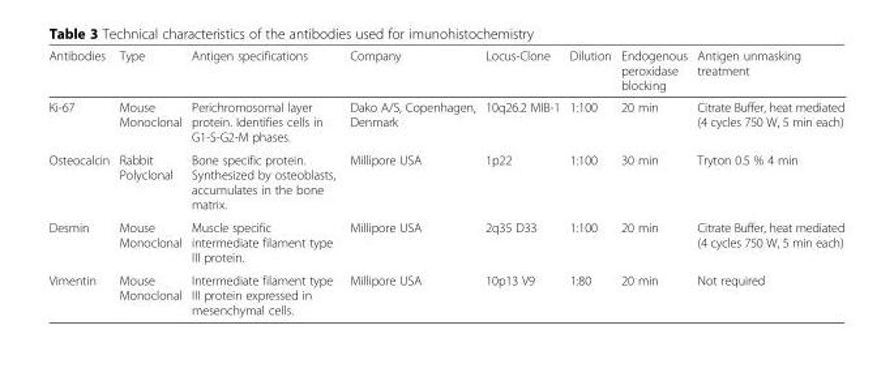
<table><thead><tr><td>Antibodies</td><td>Type</td><td>Antigen specifications</td><td>Company</td><td>Locus-Clone</td><td>Dilution</td><td>Endogenous peroxidase blocking</td><td>Antigen unmasking treatment</td></tr></thead><tbody><tr><td>Ki-67</td><td>Mouse Monoclonal</td><td>Perichromosomal layer protein. Identifies cells in G1-S-G2-M phases.</td><td>Dako A/S, Copenhagen, Denmark</td><td>10q26.2 MIB-1</td><td>1:100</td><td>20 min</td><td>Citrate Buffer, heat mediated (4 cycles 750 W, 5 min each)</td></tr><tr><td>Osteocalcin</td><td>Rabbit Polyclonal</td><td>Bone specific protein. Synthesized by osteoblasts, accumulates in the bone matrix.</td><td>Millipore USA</td><td>1p22</td><td>1:100</td><td>30 min</td><td>Tryton 0.5 % 4 min</td></tr><tr><td>Desmin</td><td>Mouse Monoclonal</td><td>Muscle specific intermediate filament type III protein.</td><td>Millipore USA</td><td>2q35 D33</td><td>1:100</td><td>20 min</td><td>Citrate Buffer, heat mediated (4 cycles 750 W, 5 min each)</td></tr><tr><td>Vimentin</td><td>Mouse Monoclonal</td><td>Intermediate filament type III protein expressed in mesenchymal cells.</td><td>Millipore USA</td><td>10p13 V9</td><td>1:80</td><td>20 min</td><td>Not required</td></tr></tbody></table>